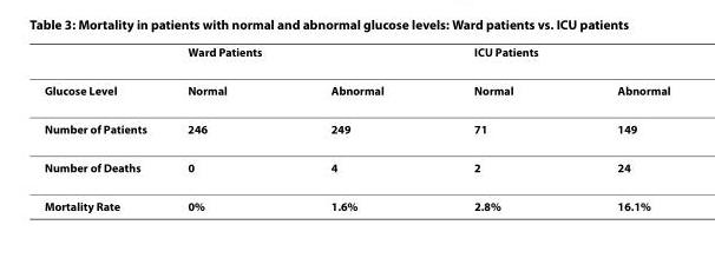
<table><thead><tr><td></td><td>Ward Patients</td><td></td><td>ICU Patients</td><td></td></tr></thead><tbody><tr><td>Glucose Level</td><td>Normal</td><td>Abnormal</td><td>Normal</td><td>Abnormal</td></tr><tr><td>Number of Patients</td><td>246</td><td>249</td><td>71</td><td>149</td></tr><tr><td>Number of Deaths</td><td>0</td><td>4</td><td>2</td><td>24</td></tr><tr><td>Mortality Rate</td><td>0%</td><td>1.6%</td><td>2.8%</td><td>16.1%</td></tr></tbody></table>